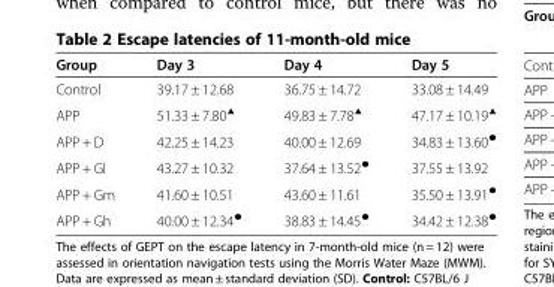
<table><thead><tr><td>Group</td><td>Day 3</td><td>Day 4</td><td>Day 5</td></tr></thead><tbody><tr><td>Control</td><td>39.17 ± 12.68</td><td>36.75 ± 14.72</td><td>33.08 ± 14.49</td></tr><tr><td>APP</td><td>51.33 ± 7.80<sup>▲</sup></td><td>49.83 ± 7.78<sup>▲</sup></td><td>47.17 ± 10.19<sup>▲</sup></td></tr><tr><td>APP + D</td><td>42.25 ± 14.23</td><td>40.00 ± 12.69</td><td>34.83 ± 13.60<sup>●</sup></td></tr><tr><td>APP + Gl</td><td>43.27 ± 10.32</td><td>37.64 ± 13.52<sup>●</sup></td><td>37.55 ± 13.92</td></tr><tr><td>APP + Gm</td><td>41.60 ± 10.51</td><td>43.60 ± 11.61</td><td>35.50 ± 13.91<sup>●</sup></td></tr><tr><td>APP + Gh</td><td>40.00 ± 12.34<sup>●</sup></td><td>38.83 ± 14.45<sup>●</sup></td><td>34.42 ± 12.38<sup>●</sup></td></tr></tbody></table>